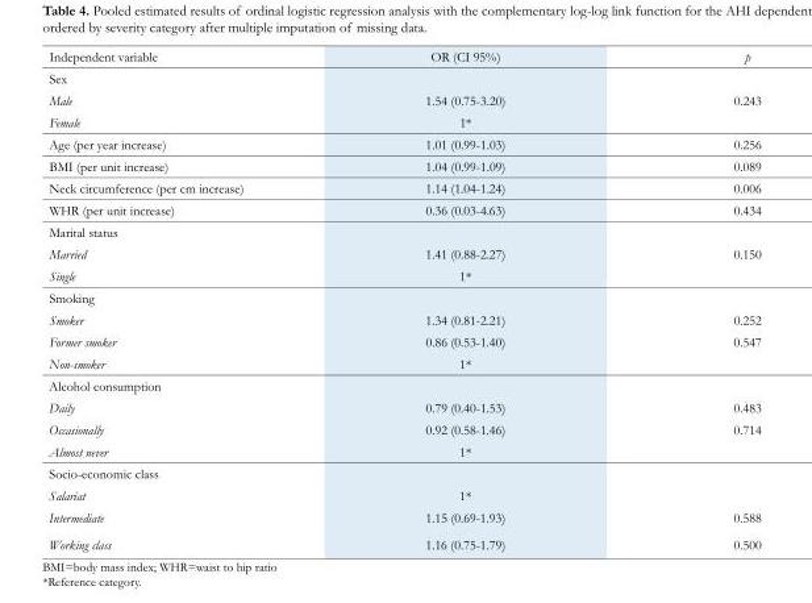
<table><thead><tr><td>Independent variable</td><td>OR (CI 95%)</td><td>p</td></tr></thead><tbody><tr><td colspan="3">Sex</td></tr><tr><td>Male</td><td>1.54 (0.75-3.20)</td><td>0.243</td></tr><tr><td>Female</td><td>1*</td><td></td></tr><tr><td>Age (per year increase)</td><td>1.01 (0.99-1.03)</td><td>0.256</td></tr><tr><td>ΒΜΙ (per unit increase)</td><td>1.04 (0.99-1.09)</td><td>0.089</td></tr><tr><td>Neck circumference (per cm increase)</td><td>1.14 (1.04-1.24)</td><td>0.006</td></tr><tr><td>WHR (per unit increase)</td><td>0.36 (0.03-4.63)</td><td>0.434</td></tr><tr><td colspan="3">Marital status</td></tr><tr><td>Married</td><td>1.41 (0.88-2.27)</td><td>0.150</td></tr><tr><td>Single</td><td>1*</td><td></td></tr><tr><td colspan="3">Smoking</td></tr><tr><td>Smoker</td><td>1.34 (0.81-2.21)</td><td>0.252</td></tr><tr><td>Former smoker</td><td>0.86 (0.53-1.40)</td><td>0.547</td></tr><tr><td>Non-smoker</td><td>1*</td><td></td></tr><tr><td colspan="3">Alcohol consumption</td></tr><tr><td>Daily</td><td>0.79 (0.40-1.53)</td><td>0.483</td></tr><tr><td>Occasionally</td><td>0.92 (0.58-1.46)</td><td>0.714</td></tr><tr><td>Almost never</td><td>1*</td><td></td></tr><tr><td colspan="3">Socio-economic class</td></tr><tr><td>Salariat</td><td>1*</td><td></td></tr><tr><td>Intermediate</td><td>1.15 (0.69-1.93)</td><td>0.588</td></tr><tr><td>Working class</td><td>1.16 (0.75-1.79)</td><td>0.500</td></tr></tbody></table>